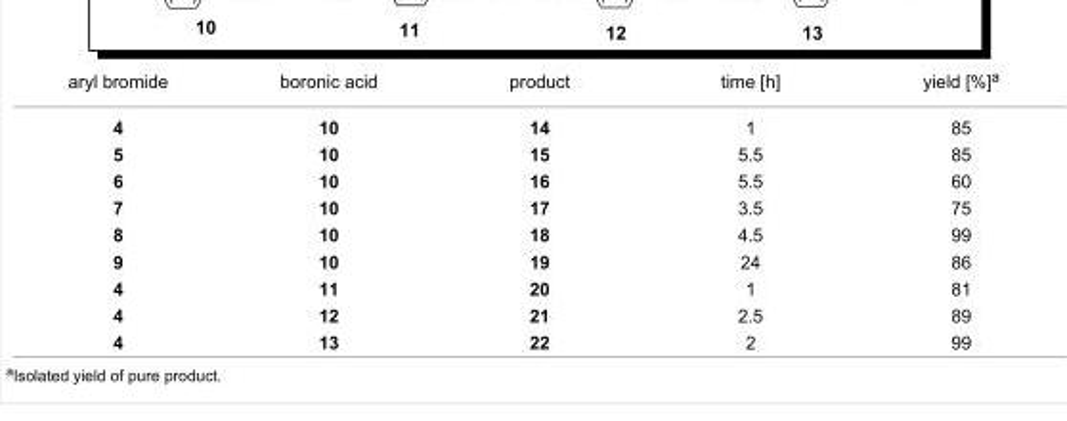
<table><tbody><tr><td>aryl bromide</td><td>boronic acid</td><td>product</td><td>time [h]</td><td>yield [%]<sup>a</sup></td></tr><tr><td>4</td><td>10</td><td>14</td><td>1</td><td>85</td></tr><tr><td>5</td><td>10</td><td>15</td><td>5.5</td><td>85</td></tr><tr><td>6</td><td>10</td><td>16</td><td>5.5</td><td>60</td></tr><tr><td>7</td><td>10</td><td>17</td><td>3.5</td><td>75</td></tr><tr><td>8</td><td>10</td><td>18</td><td>4.5</td><td>99</td></tr><tr><td>9</td><td>10</td><td>19</td><td>24</td><td>86</td></tr><tr><td>4</td><td>11</td><td>20</td><td>1</td><td>81</td></tr><tr><td>4</td><td>12</td><td>21</td><td>2.5</td><td>89</td></tr><tr><td>4</td><td>13</td><td>22</td><td>2</td><td>99</td></tr></tbody></table>